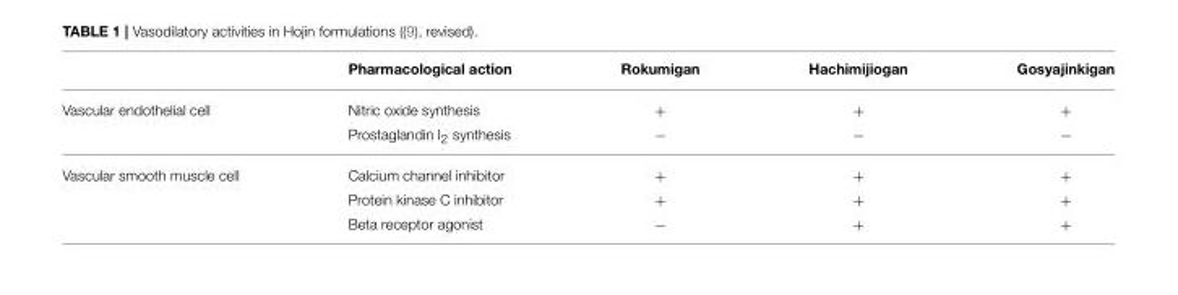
<table><thead><tr><td></td><td>Pharmacological action</td><td>Rokumigan</td><td>Hachimijiogan</td><td>Gosyajinkigan</td></tr></thead><tbody><tr><td rowspan="2">Vascular endothelial cell</td><td>Nitric oxide synthesis</td><td>+</td><td>+</td><td>+</td></tr><tr><td>Prostaglandin I<sub>2</sub> synthesis</td><td>−</td><td>−</td><td>−</td></tr><tr><td rowspan="3">Vascular smooth muscle cell</td><td>Calcium channel inhibitor</td><td>+</td><td>+</td><td>+</td></tr><tr><td>Protein kinase C inhibitor</td><td>+</td><td>+</td><td>+</td></tr><tr><td>Beta receptor agonist</td><td>−</td><td>+</td><td>+</td></tr></tbody></table>